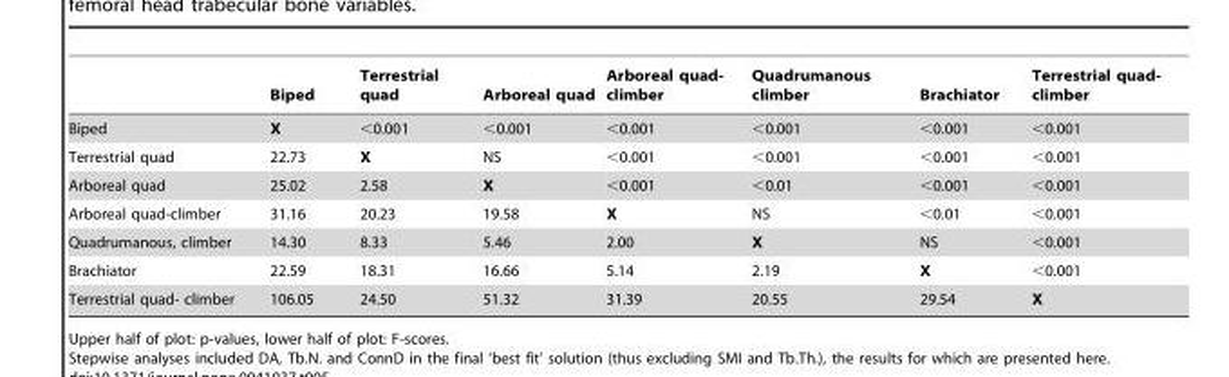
<table><thead><tr><td></td><td>Biped</td><td>Terrestrial quad</td><td>Arboreal quad</td><td>Arboreal quad- climber</td><td>Quadrumanous climber</td><td>Brachiator</td><td>Terrestrial quad- climber</td></tr></thead><tbody><tr><td>Biped</td><td>X</td><td>&lt;0.001</td><td>&lt;0.001</td><td>&lt;0.001</td><td>&lt;0.001</td><td>&lt;0.001</td><td>&lt;0.001</td></tr><tr><td>Terrestrial quad</td><td>22.73</td><td>X</td><td>NS</td><td>&lt;0.001</td><td>&lt;0.001</td><td>&lt;0.001</td><td>&lt;0.001</td></tr><tr><td>Arboreal quad</td><td>25.02</td><td>2.58</td><td>X</td><td>&lt;0.001</td><td>&lt;0.01</td><td>&lt;0.001</td><td>&lt;0.001</td></tr><tr><td>Arboreal quad-climber</td><td>31.16</td><td>20.23</td><td>19.58</td><td>X</td><td>NS</td><td>&lt;0.01</td><td>&lt;0.001</td></tr><tr><td>Quadrumanous, climber</td><td>14.30</td><td>8.33</td><td>5.46</td><td>2.00</td><td>X</td><td>NS</td><td>&lt;0.001</td></tr><tr><td>Brachiator</td><td>22.59</td><td>18.31</td><td>16.66</td><td>5.14</td><td>2.19</td><td>X</td><td>&lt;0.001</td></tr><tr><td>Terrestrial quad- climber</td><td>106.05</td><td>24.50</td><td>51.32</td><td>31.39</td><td>20.55</td><td>29.54</td><td>X</td></tr></tbody></table>